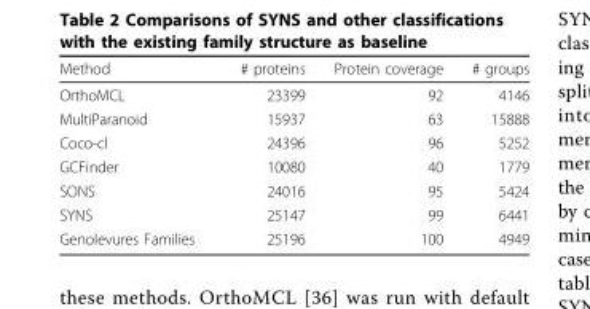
<table><thead><tr><td>Method</td><td># proteins</td><td>Protein coverage</td><td># groups</td></tr></thead><tbody><tr><td>OrthoMCL</td><td>23399</td><td>92</td><td>4146</td></tr><tr><td>MultiParanoid</td><td>15937</td><td>63</td><td>15888</td></tr><tr><td>Coco-cl</td><td>24396</td><td>96</td><td>5252</td></tr><tr><td>GCFinder</td><td>10080</td><td>40</td><td>1779</td></tr><tr><td>SONS</td><td>24016</td><td>95</td><td>5424</td></tr><tr><td>SYNS</td><td>25147</td><td>99</td><td>6441</td></tr><tr><td>Genolevures Families</td><td>25196</td><td>100</td><td>4949</td></tr></tbody></table>